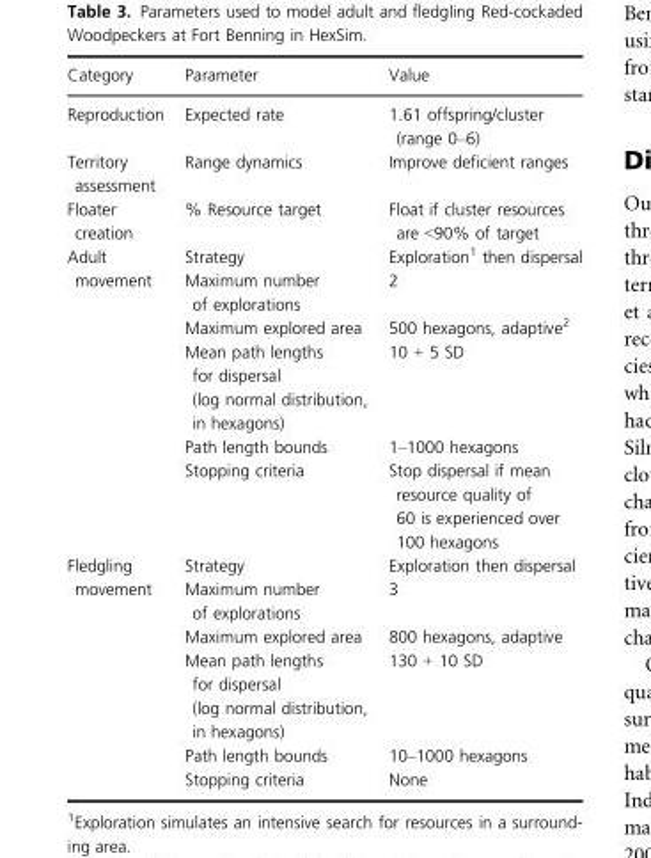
<table><thead><tr><td>Category</td><td>Parameter</td><td>Value</td></tr></thead><tbody><tr><td>Reproduction</td><td>Expected rate</td><td>1.61 offspring/cluster (range 0–6)</td></tr><tr><td>Territory assessment</td><td>Range dynamics</td><td>Improve deficient ranges</td></tr><tr><td>Floater creation</td><td>% Resource target</td><td>Float if cluster resources are &lt;90% of target</td></tr><tr><td rowspan="6">Adult movement</td><td>Strategy</td><td>Exploration1 then dispersal</td></tr><tr><td>Maximum number of explorations</td><td>2</td></tr><tr><td>Maximum explored area</td><td>500 hexagons, adaptive2</td></tr><tr><td>Mean path lengths for dispersal (log normal distribution, in hexagons)</td><td>10 + 5 SD</td></tr><tr><td>Path length bounds</td><td>1–1000 hexagons</td></tr><tr><td>Stopping criteria</td><td>Stop dispersal if mean resource quality of 60 is experienced over 100 hexagons</td></tr><tr><td rowspan="6">Fledgling movement</td><td>Strategy</td><td>Exploration then dispersal</td></tr><tr><td>Maximum number of explorations</td><td>3</td></tr><tr><td>Maximum explored area</td><td>800 hexagons, adaptive</td></tr><tr><td>Mean path lengths for dispersal (log normal distribution, in hexagons)</td><td>130 + 10 SD</td></tr><tr><td>Path length bounds</td><td>10–1000 hexagons</td></tr><tr><td>Stopping criteria</td><td>None</td></tr></tbody></table>